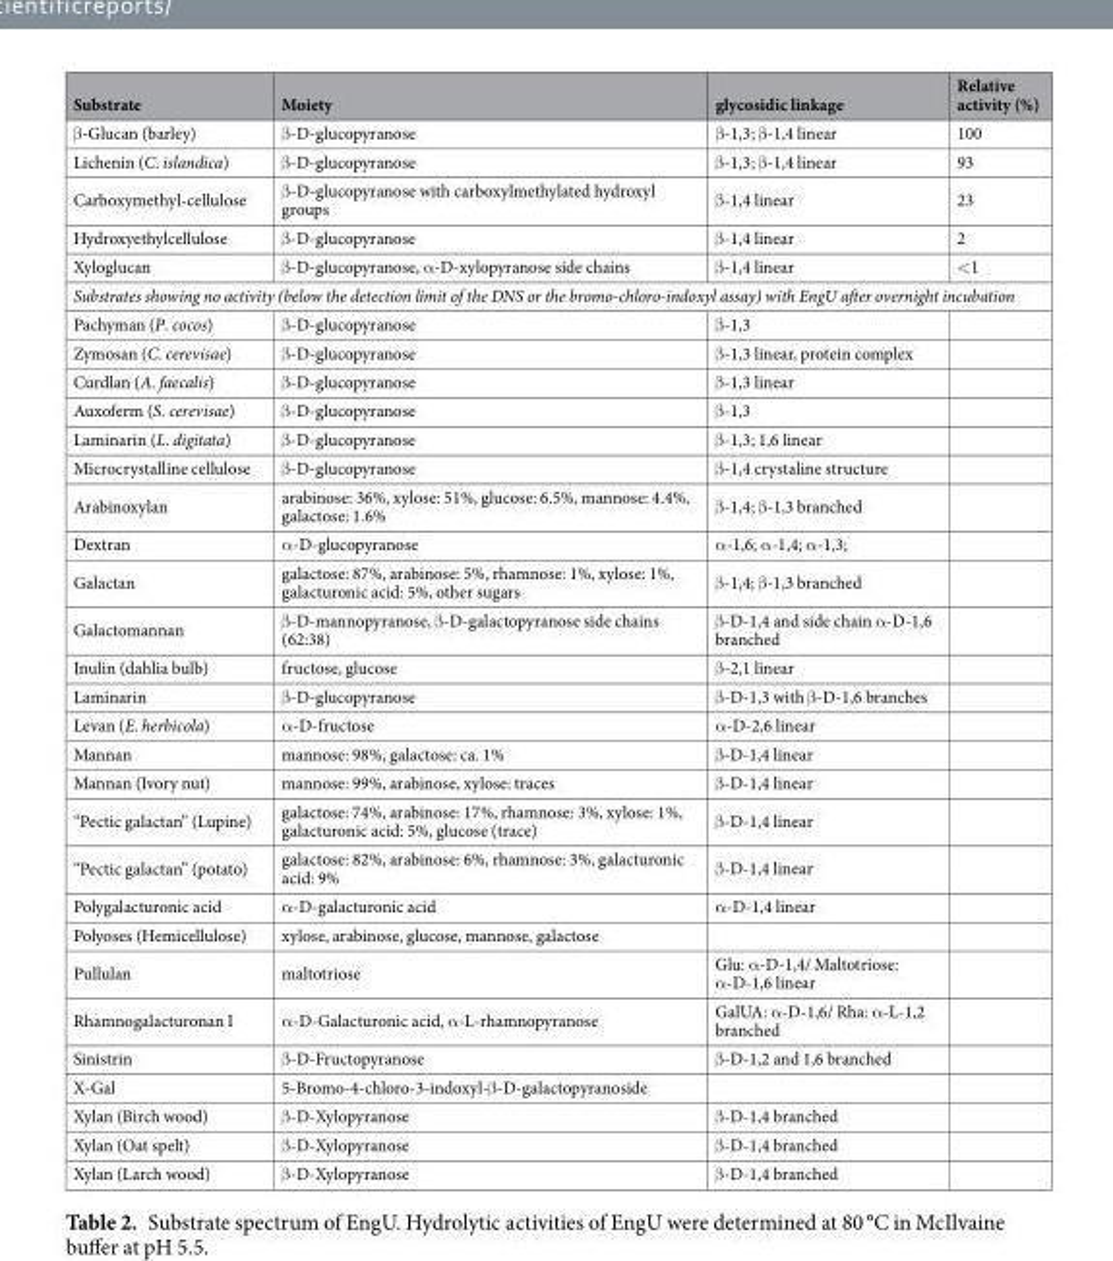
<table><thead><tr><td>Substrate</td><td>Moiety</td><td>glycosidic linkage</td><td>Relative activity (%)</td></tr></thead><tbody><tr><td>β-Glucan (barley)</td><td>β-D-glucopyranose</td><td>β-1,3; β-1,4 linear</td><td>100</td></tr><tr><td>Lichenin (C. islandica)</td><td>β-D-glucopyranose</td><td>β-1,3; β-1,4 linear</td><td>93</td></tr><tr><td>Carboxymethyl-cellulose</td><td>β-D-glucopyranose with carboxylmethylated hydroxyl groups</td><td>β-1,4 linear</td><td>23</td></tr><tr><td>Hydroxyethylcellulose</td><td>β-D-glucopyranose</td><td>β-1,4 linear</td><td>2</td></tr><tr><td>Xyloglucan</td><td>β-D-glucopyranose, α-D-xylopyranose side chains</td><td>β-1,4 linear</td><td>&lt;1</td></tr><tr><td colspan="4">Substrates showing no activity (below the detection limit of the DNS or the bromo-chloro-indoxyl assay) with EngU after overnight incubation</td></tr><tr><td>Pachyman (P. cocos)</td><td>β-D-glucopyranose</td><td>β-1,3</td><td></td></tr><tr><td>Zymosan (C. cerevisae)</td><td>β-D-glucopyranose</td><td>β-1,3 linear, protein complex</td><td></td></tr><tr><td>Curdlan (A. faecalis)</td><td>β-D-glucopyranose</td><td>β-1,3 linear</td><td></td></tr><tr><td>Auxoferm (S. cerevisae)</td><td>β-D-glucopyranose</td><td>β-1,3</td><td></td></tr><tr><td>Laminarin (L. digitata)</td><td>β-D-glucopyranose</td><td>β-1,3; 1,6 linear</td><td></td></tr><tr><td>Microcrystalline cellulose</td><td>β-D-glucopyranose</td><td>β-1,4 crystaline structure</td><td></td></tr><tr><td>Arabinoxylan</td><td>arabinose: 36%, xylose: 51%, glucose: 6.5%, mannose: 4.4%, galactose: 1.6%</td><td>β-1,4; β-1,3 branched</td><td></td></tr><tr><td>Dextran</td><td>α-D-glucopyranose</td><td>α-1,6; α-1,4; α-1,3;</td><td></td></tr><tr><td>Galactan</td><td>galactose: 87%, arabinose: 5%, rhamnose: 1%, xylose: 1%, galacturonic acid: 5%, other sugars</td><td>β-1,4; β-1,3 branched</td><td></td></tr><tr><td>Galactomannan</td><td>β-D-mannopyranose, β-D-galactopyranose side chains (62:38)</td><td>β-D-1,4 and side chain α-D-1,6 branched</td><td></td></tr><tr><td>Inulin (dahlia bulb)</td><td>fructose, glucose</td><td>β-2,1 linear</td><td></td></tr><tr><td>Laminarin</td><td>β-D-glucopyranose</td><td>β-D-1,3 with β-D-1,6 branches</td><td></td></tr><tr><td>Levan (E. herbicola)</td><td>α-D-fructose</td><td>α-D-2,6 linear</td><td></td></tr><tr><td>Mannan</td><td>mannose: 98%, galactose: ca. 1%</td><td>β-D-1,4 linear</td><td></td></tr><tr><td>Mannan (Ivory nut)</td><td>mannose: 99%, arabinose, xylose: traces</td><td>β-D-1,4 linear</td><td></td></tr><tr><td>“Pectic galactan” (Lupine)</td><td>galactose: 74%, arabinose: 17%, rhamnose: 3%, xylose: 1%, galacturonic acid: 5%, glucose (trace)</td><td>β-D-1,4 linear</td><td></td></tr><tr><td>“Pectic galactan” (potato)</td><td>galactose: 82%, arabinose: 6%, rhamnose: 3%, galacturonic acid: 9%</td><td>β-D-1,4 linear</td><td></td></tr><tr><td>Polygalacturonic acid</td><td>α-D-galacturonic acid</td><td>α-D-1,4 linear</td><td></td></tr><tr><td>Polyoses (Hemicellulose)</td><td>xylose, arabinose, glucose, mannose, galactose</td><td></td><td></td></tr><tr><td>Pullulan</td><td>maltotriose</td><td>Glu: α-D-1,4/ Maltotriose: α-D-1,6 linear</td><td></td></tr><tr><td>Rhamnogalacturonan I</td><td>α-D-Galacturonic acid, α-L-rhamnopyranose</td><td>GalUA: α-D-1,6/ Rha: α-L-1,2 branched</td><td></td></tr><tr><td>Sinistrin</td><td>β-D-Fructopyranose</td><td>β-D-1,2 and 1,6 branched</td><td></td></tr><tr><td>X-Gal</td><td>5-Bromo-4-chloro-3-indoxyl-β-D-galactopyranoside</td><td></td><td></td></tr><tr><td>Xylan (Birch wood)</td><td>β-D-Xylopyranose</td><td>β-D-1,4 branched</td><td></td></tr><tr><td>Xylan (Oat spelt)</td><td>β-D-Xylopyranose</td><td>β-D-1,4 branched</td><td></td></tr><tr><td>Xylan (Larch wood)</td><td>β-D-Xylopyranose</td><td>β-D-1,4 branched</td><td></td></tr></tbody></table>